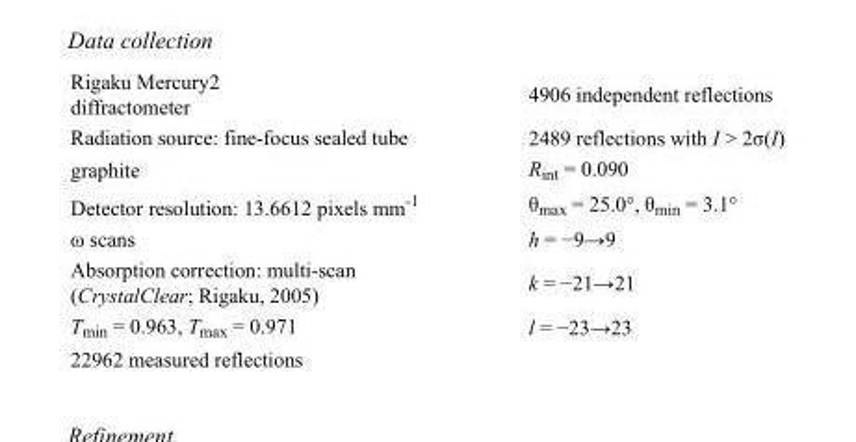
<table><tbody><tr><td>Rigaku Mercury2 diffractometer</td><td>4906 independent reflections</td></tr><tr><td>Radiation source: fine-focus sealed tube</td><td>2489 reflections with I &gt; 2σ(I)</td></tr><tr><td>graphite</td><td>R<sub>int</sub> = 0.090</td></tr><tr><td>Detector resolution: 13.6612 pixels mm<sup>-1</sup></td><td>θ<sub>max</sub> = 25.0°, θ<sub>min</sub> = 3.1°</td></tr><tr><td>ω scans</td><td>h = −9→9</td></tr><tr><td>Absorption correction: multi-scan (CrystalClear; Rigaku, 2005)</td><td>k = −21→21</td></tr><tr><td>T<sub>min</sub> = 0.963, T<sub>max</sub> = 0.971</td><td>l = −23→23</td></tr><tr><td>22962 measured reflections</td><td></td></tr></tbody></table>